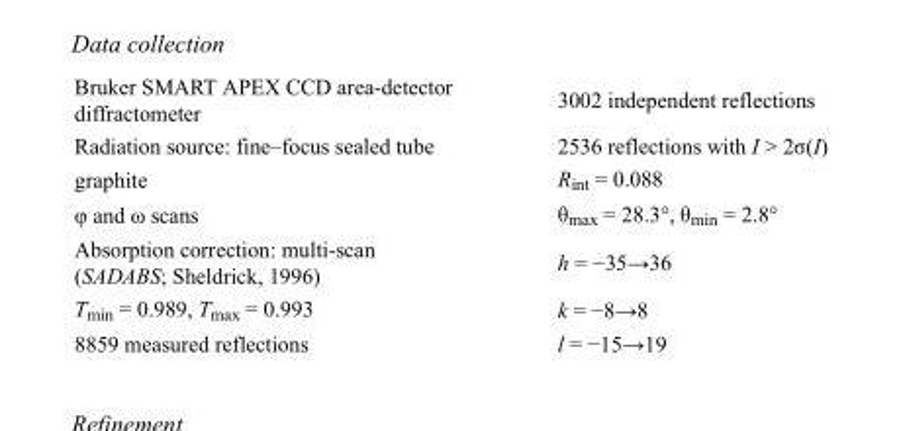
<table><tbody><tr><td>Bruker SMART APEX CCD area-detector diffractometer</td><td>3002 independent reflections</td></tr><tr><td>Radiation source: fine–focus sealed tube</td><td>2536 reflections with I &gt; 2σ(I)</td></tr><tr><td>graphite</td><td>R<sub>int</sub> = 0.088</td></tr><tr><td>φ and ω scans</td><td>θ<sub>max</sub> = 28.3°, θ<sub>min</sub> = 2.8°</td></tr><tr><td>Absorption correction: multi-scan (SADABS; Sheldrick, 1996)</td><td>h = −35→36</td></tr><tr><td>T<sub>min</sub> = 0.989, T<sub>max</sub> = 0.993</td><td>k = −8→8</td></tr><tr><td>8859 measured reflections</td><td>l = −15→19</td></tr></tbody></table>